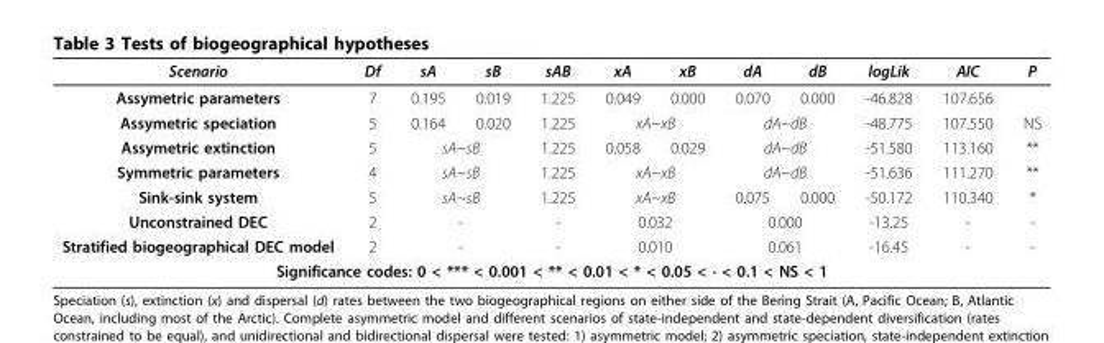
<table><thead><tr><td>Scenario</td><td>Df</td><td>sA</td><td>sB</td><td>sAB</td><td>xA</td><td>xB</td><td>dA</td><td>dB</td><td>logLik</td><td>AIC</td><td>P</td></tr></thead><tbody><tr><td>Assymetric parameters</td><td>7</td><td>0.195</td><td>0.019</td><td>1.225</td><td>0.049</td><td>0.000</td><td>0.070</td><td>0.000</td><td>-46.828</td><td>107.656</td><td></td></tr><tr><td>Assymetric speciation</td><td>5</td><td>0.164</td><td>0.020</td><td>1.225</td><td colspan="2">xA~xB</td><td colspan="2">dA~dB</td><td>-48.775</td><td>107.550</td><td>NS</td></tr><tr><td>Assymetric extinction</td><td>5</td><td colspan="2">sA~sB</td><td>1.225</td><td>0.058</td><td>0.029</td><td colspan="2">dA~dB</td><td>-51.580</td><td>113.160</td><td>**</td></tr><tr><td>Symmetric parameters</td><td>4</td><td colspan="2">sA~sB</td><td>1.225</td><td colspan="2">xA~xB</td><td colspan="2">dA~dB</td><td>-51.636</td><td>111.270</td><td>**</td></tr><tr><td>Sink-sink system</td><td>5</td><td colspan="2">sA~sB</td><td>1.225</td><td colspan="2">xA~xB</td><td>0.075</td><td>0.000</td><td>-50.172</td><td>110.340</td><td>*</td></tr><tr><td>Unconstrained DEC</td><td>2</td><td colspan="2">-</td><td>-</td><td colspan="2">0.032</td><td colspan="2">0.000</td><td>-13.25</td><td>-</td><td>-</td></tr><tr><td>Stratified biogeographical DEC model</td><td>2</td><td colspan="2">-</td><td>-</td><td colspan="2">0.010</td><td colspan="2">0.061</td><td>-16.45</td><td>-</td><td>-</td></tr><tr><td colspan="12">Significance codes: 0 &lt; *** &lt; 0.001 &lt; ** &lt; 0.01 &lt; * &lt; 0.05 &lt; · &lt; 0.1 &lt; NS &lt; 1</td></tr></tbody></table>